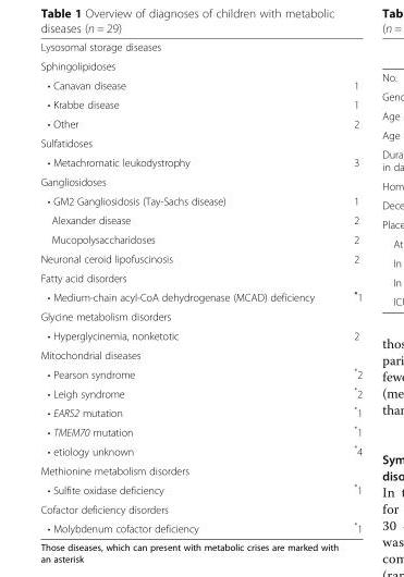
<table><tbody><tr><td colspan="2">Lysosomal storage diseases</td></tr><tr><td colspan="2">Sphingolipidoses</td></tr><tr><td>• Canavan disease</td><td>1</td></tr><tr><td>• Krabbe disease</td><td>1</td></tr><tr><td>• Other</td><td>2</td></tr><tr><td colspan="2">Sulfatidoses</td></tr><tr><td>• Metachromatic leukodystrophy</td><td>3</td></tr><tr><td colspan="2">Gangliosidoses</td></tr><tr><td>• GM2 Gangliosidosis (Tay-Sachs disease)</td><td>1</td></tr><tr><td>Alexander disease</td><td>2</td></tr><tr><td>Mucopolysaccharidoses</td><td>2</td></tr><tr><td>Neuronal ceroid lipofuscinosis</td><td>2</td></tr><tr><td colspan="2">Fatty acid disorders</td></tr><tr><td>• Medium-chain acyl-CoA dehydrogenase (MCAD) deficiency</td><td>*1</td></tr><tr><td colspan="2">Glycine metabolism disorders</td></tr><tr><td>• Hyperglycinemia, nonketotic</td><td>2</td></tr><tr><td colspan="2">Mitochondrial diseases</td></tr><tr><td>• Pearson syndrome</td><td>*2</td></tr><tr><td>• Leigh syndrome</td><td>*2</td></tr><tr><td>• EARS2 mutation</td><td>*1</td></tr><tr><td>• TMEM70 mutation</td><td>*1</td></tr><tr><td>• etiology unknown</td><td>*4</td></tr><tr><td colspan="2">Methionine metabolism disorders</td></tr><tr><td>• Sulfite oxidase deficiency</td><td>*1</td></tr><tr><td colspan="2">Cofactor deficiency disorders</td></tr><tr><td>• Molybdenum cofactor deficiency</td><td>*1</td></tr></tbody></table>